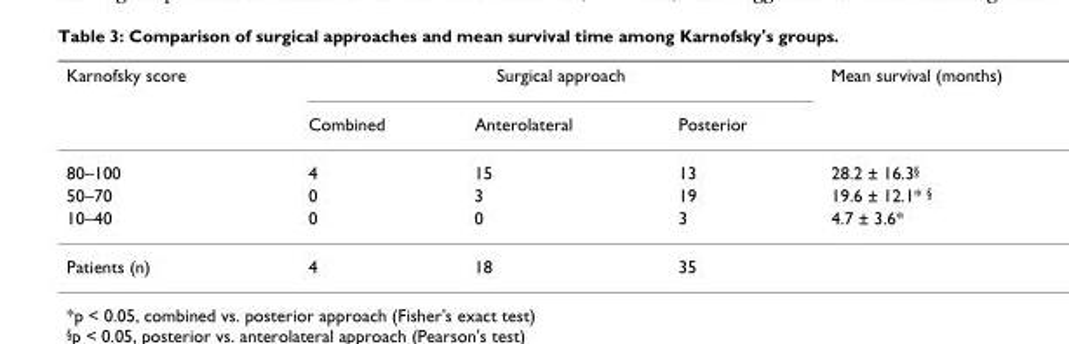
<table><thead><tr><td rowspan="2">Karnofsky score</td><td colspan="3">Surgical approach</td><td rowspan="2">Mean survival (months)</td></tr><tr><td>Combined</td><td>Anterolateral</td><td>Posterior</td></tr></thead><tbody><tr><td>80–100</td><td>4</td><td>15</td><td>13</td><td>28.2 ± 16.3<sup>§</sup></td></tr><tr><td>50–70</td><td>0</td><td>3</td><td>19</td><td>19.6 ± 12.1* <sup>§</sup></td></tr><tr><td>10–40</td><td>0</td><td>0</td><td>3</td><td>4.7 ± 3.6*</td></tr><tr><td>Patients (n)</td><td>4</td><td>18</td><td>35</td><td></td></tr></tbody></table>